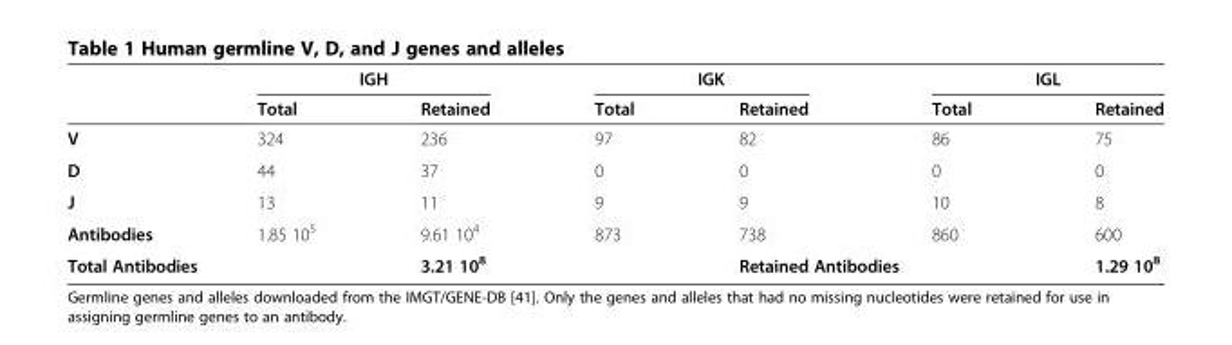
<table><thead><tr><td rowspan="2"></td><td colspan="2">IGH</td><td colspan="2">IGK</td><td colspan="2">IGL</td></tr><tr><td>Total</td><td>Retained</td><td>Total</td><td>Retained</td><td>Total</td><td>Retained</td></tr></thead><tbody><tr><td>V</td><td>324</td><td>236</td><td>97</td><td>82</td><td>86</td><td>75</td></tr><tr><td>D</td><td>44</td><td>37</td><td>0</td><td>0</td><td>0</td><td>0</td></tr><tr><td>J</td><td>13</td><td>11</td><td>9</td><td>9</td><td>10</td><td>8</td></tr><tr><td>Antibodies</td><td>1.85 10<sup>5</sup></td><td>9.61 10<sup>4</sup></td><td>873</td><td>738</td><td>860</td><td>600</td></tr><tr><td colspan="2">Total Antibodies</td><td>3.21 10<sup>8</sup></td><td></td><td colspan="2">Retained Antibodies</td><td>1.29 10<sup>8</sup></td></tr></tbody></table>